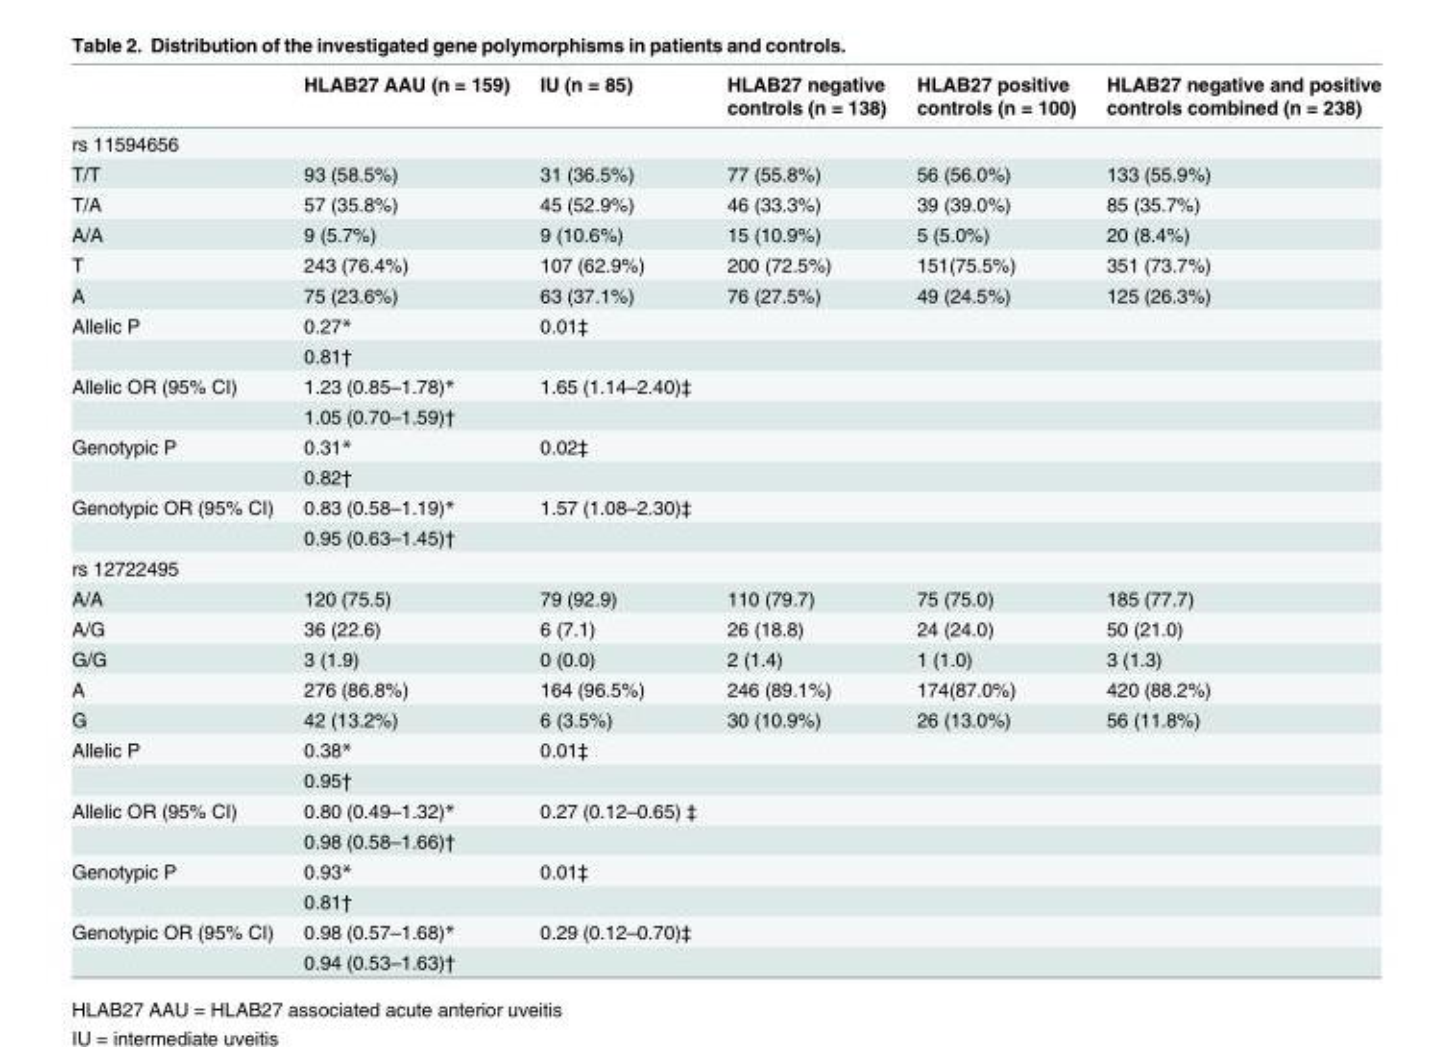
<table><thead><tr><td></td><td>HLAB27 AAU (n = 159)</td><td>IU (n = 85)</td><td>HLAB27 negative controls (n = 138)</td><td>HLAB27 positive controls (n = 100)</td><td>HLAB27 negative and positive controls combined (n = 238)</td></tr></thead><tbody><tr><td colspan="6">rs 11594656</td></tr><tr><td>T/T</td><td>93 (58.5%)</td><td>31 (36.5%)</td><td>77 (55.8%)</td><td>56 (56.0%)</td><td>133 (55.9%)</td></tr><tr><td>T/A</td><td>57 (35.8%)</td><td>45 (52.9%)</td><td>46 (33.3%)</td><td>39 (39.0%)</td><td>85 (35.7%)</td></tr><tr><td>A/A</td><td>9 (5.7%)</td><td>9 (10.6%)</td><td>15 (10.9%)</td><td>5 (5.0%)</td><td>20 (8.4%)</td></tr><tr><td>T</td><td>243 (76.4%)</td><td>107 (62.9%)</td><td>200 (72.5%)</td><td>151(75.5%)</td><td>351 (73.7%)</td></tr><tr><td>A</td><td>75 (23.6%)</td><td>63 (37.1%)</td><td>76 (27.5%)</td><td>49 (24.5%)</td><td>125 (26.3%)</td></tr><tr><td rowspan="2">Allelic P</td><td>0.27*</td><td>0.01‡</td><td></td><td></td><td></td></tr><tr><td>0.81†</td><td></td><td></td><td></td><td></td></tr><tr><td rowspan="2">Allelic OR (95% CI)</td><td>1.23 (0.85–1.78)*</td><td>1.65 (1.14–2.40)‡</td><td></td><td></td><td></td></tr><tr><td>1.05 (0.70–1.59)†</td><td></td><td></td><td></td><td></td></tr><tr><td rowspan="2">Genotypic P</td><td>0.31*</td><td>0.02‡</td><td></td><td></td><td></td></tr><tr><td>0.82†</td><td></td><td></td><td></td><td></td></tr><tr><td rowspan="2">Genotypic OR (95% CI)</td><td>0.83 (0.58–1.19)*</td><td>1.57 (1.08–2.30)‡</td><td></td><td></td><td></td></tr><tr><td>0.95 (0.63–1.45)†</td><td></td><td></td><td></td><td></td></tr><tr><td colspan="6">rs 12722495</td></tr><tr><td>A/A</td><td>120 (75.5)</td><td>79 (92.9)</td><td>110 (79.7)</td><td>75 (75.0)</td><td>185 (77.7)</td></tr><tr><td>A/G</td><td>36 (22.6)</td><td>6 (7.1)</td><td>26 (18.8)</td><td>24 (24.0)</td><td>50 (21.0)</td></tr><tr><td>G/G</td><td>3 (1.9)</td><td>0 (0.0)</td><td>2 (1.4)</td><td>1 (1.0)</td><td>3 (1.3)</td></tr><tr><td>A</td><td>276 (86.8%)</td><td>164 (96.5%)</td><td>246 (89.1%)</td><td>174(87.0%)</td><td>420 (88.2%)</td></tr><tr><td>G</td><td>42 (13.2%)</td><td>6 (3.5%)</td><td>30 (10.9%)</td><td>26 (13.0%)</td><td>56 (11.8%)</td></tr><tr><td rowspan="2">Allelic P</td><td>0.38*</td><td>0.01‡</td><td></td><td></td><td></td></tr><tr><td>0.95†</td><td></td><td></td><td></td><td></td></tr><tr><td rowspan="2">Allelic OR (95% CI)</td><td>0.80 (0.49–1.32)*</td><td>0.27 (0.12–0.65) ‡</td><td></td><td></td><td></td></tr><tr><td>0.98 (0.58–1.66)†</td><td></td><td></td><td></td><td></td></tr><tr><td rowspan="2">Genotypic P</td><td>0.93*</td><td>0.01‡</td><td></td><td></td><td></td></tr><tr><td>0.81†</td><td></td><td></td><td></td><td></td></tr><tr><td rowspan="2">Genotypic OR (95% CI)</td><td>0.98 (0.57–1.68)*</td><td>0.29 (0.12–0.70)‡</td><td></td><td></td><td></td></tr><tr><td>0.94 (0.53–1.63)†</td><td></td><td></td><td></td><td></td></tr></tbody></table>